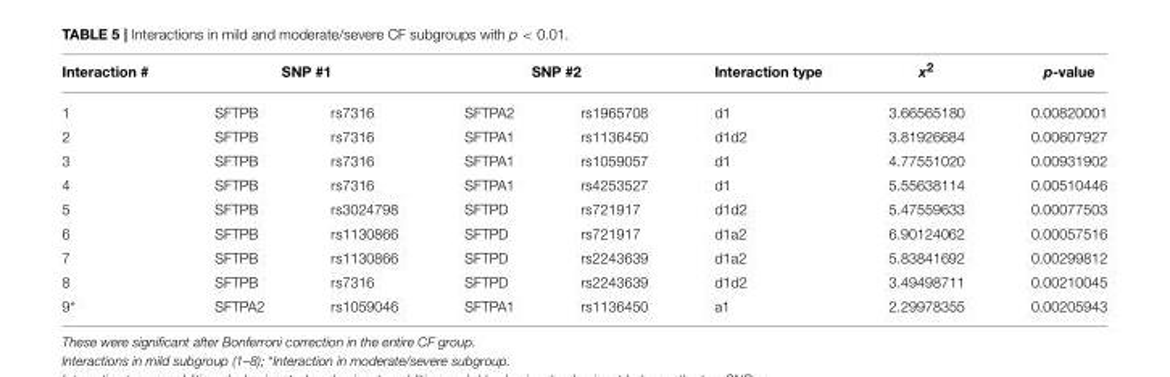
<table><thead><tr><td rowspan="2">Interaction # 1</td><td colspan="2">SNP #1</td><td colspan="2">SNP #2</td><td rowspan="2">Interaction type d1</td><td rowspan="2">x<sup>2</sup> 3.66565180</td><td rowspan="2">p-value 0.00820001</td></tr><tr><td>SFTPB</td><td>rs7316</td><td>SFTPA2</td><td>rs1965708</td></tr></thead><tbody><tr><td>2</td><td>SFTPB</td><td>rs7316</td><td>SFTPA1</td><td>rs1136450</td><td>d1d2</td><td>3.81926684</td><td>0.00607927</td></tr><tr><td>3</td><td>SFTPB</td><td>rs7316</td><td>SFTPA1</td><td>rs1059057</td><td>d1</td><td>4.77551020</td><td>0.00931902</td></tr><tr><td>4</td><td>SFTPB</td><td>rs7316</td><td>SFTPA1</td><td>rs4253527</td><td>d1</td><td>5.55638114</td><td>0.00510446</td></tr><tr><td>5</td><td>SFTPB</td><td>rs3024798</td><td>SFTPD</td><td>rs721917</td><td>d1d2</td><td>5.47559633</td><td>0.00077503</td></tr><tr><td>6</td><td>SFTPB</td><td>rs1130866</td><td>SFTPD</td><td>rs721917</td><td>d1a2</td><td>6.90124062</td><td>0.00057516</td></tr><tr><td>7</td><td>SFTPB</td><td>rs1130866</td><td>SFTPD</td><td>rs2243639</td><td>d1a2</td><td>5.83841692</td><td>0.00299812</td></tr><tr><td>8</td><td>SFTPB</td><td>rs7316</td><td>SFTPD</td><td>rs2243639</td><td>d1d2</td><td>3.49498711</td><td>0.00210045</td></tr><tr><td>9*</td><td>SFTPA2</td><td>rs1059046</td><td>SFTPA1</td><td>rs1136450</td><td>a1</td><td>2.29978355</td><td>0.00205943</td></tr></tbody></table>